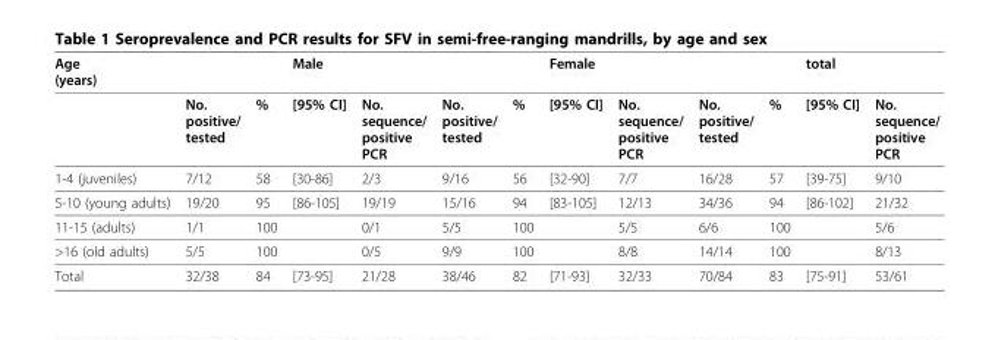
<table><thead><tr><td>Age (years)</td><td></td><td></td><td>Male</td><td></td><td></td><td></td><td>Female</td><td></td><td></td><td></td><td>total</td><td></td></tr></thead><tbody><tr><td></td><td>No. positive/ tested</td><td>%</td><td>[95% CI]</td><td>No. sequence/ positive PCR</td><td>No. positive/ tested</td><td>%</td><td>[95% CI]</td><td>No. sequence/ positive PCR</td><td>No. positive/ tested</td><td>%</td><td>[95% CI]</td><td>No. sequence/ positive PCR</td></tr><tr><td>1-4 (juveniles)</td><td>7/12</td><td>58</td><td>[30-86]</td><td>2/3</td><td>9/16</td><td>56</td><td>[32-90]</td><td>7/7</td><td>16/28</td><td>57</td><td>[39-75]</td><td>9/10</td></tr><tr><td>5-10 (young adults)</td><td>19/20</td><td>95</td><td>[86-105]</td><td>19/19</td><td>15/16</td><td>94</td><td>[83-105]</td><td>12/13</td><td>34/36</td><td>94</td><td>[86-102]</td><td>21/32</td></tr><tr><td>11-15 (adults)</td><td>1/1</td><td>100</td><td></td><td>0/1</td><td>5/5</td><td>100</td><td></td><td>5/5</td><td>6/6</td><td>100</td><td></td><td>5/6</td></tr><tr><td>&gt;16 (old adults)</td><td>5/5</td><td>100</td><td></td><td>0/5</td><td>9/9</td><td>100</td><td></td><td>8/8</td><td>14/14</td><td>100</td><td></td><td>8/13</td></tr><tr><td>Total</td><td>32/38</td><td>84</td><td>[73-95]</td><td>21/28</td><td>38/46</td><td>82</td><td>[71-93]</td><td>32/33</td><td>70/84</td><td>83</td><td>[75-91]</td><td>53/61</td></tr></tbody></table>